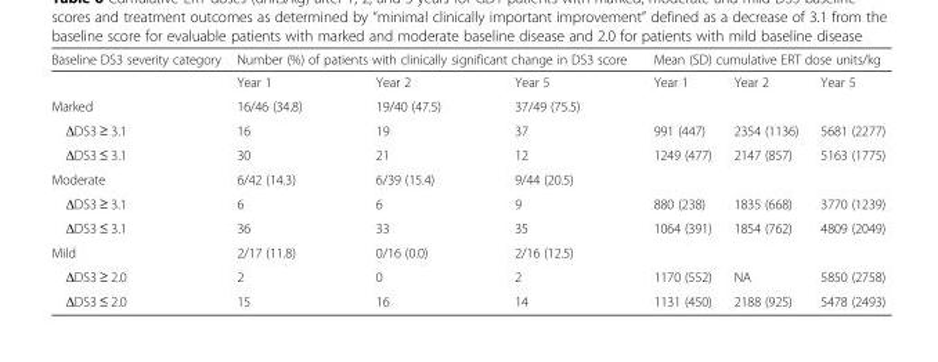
<table><thead><tr><td rowspan="2">Baseline DS3 severity category</td><td colspan="3">Number (%) of patients with clinically significant change in DS3 score</td><td colspan="3">Mean (SD) cumulative ERT dose units/kg</td></tr><tr><td>Year 1</td><td>Year 2</td><td>Year 5</td><td>Year 1</td><td>Year 2</td><td>Year 5</td></tr></thead><tbody><tr><td>Marked</td><td>16/46 (34.8)</td><td>19/40 (47.5)</td><td>37/49 (75.5)</td><td></td><td></td><td></td></tr><tr><td>ΔDS3 ≥ 3.1</td><td>16</td><td>19</td><td>37</td><td>991 (447)</td><td>2354 (1136)</td><td>5681 (2277)</td></tr><tr><td>ΔDS3 ≤ 3.1</td><td>30</td><td>21</td><td>12</td><td>1249 (477)</td><td>2147 (857)</td><td>5163 (1775)</td></tr><tr><td>Moderate</td><td>6/42 (14.3)</td><td>6/39 (15.4)</td><td>9/44 (20.5)</td><td></td><td></td><td></td></tr><tr><td>ΔDS3 ≥ 3.1</td><td>6</td><td>6</td><td>9</td><td>880 (238)</td><td>1835 (668)</td><td>3770 (1239)</td></tr><tr><td>ΔDS3 ≤ 3.1</td><td>36</td><td>33</td><td>35</td><td>1064 (391)</td><td>1854 (762)</td><td>4809 (2049)</td></tr><tr><td>Mild</td><td>2/17 (11.8)</td><td>0/16 (0.0)</td><td>2/16 (12.5)</td><td></td><td></td><td></td></tr><tr><td>ΔDS3 ≥ 2.0</td><td>2</td><td>0</td><td>2</td><td>1170 (552)</td><td>NA</td><td>5850 (2758)</td></tr><tr><td>ΔDS3 ≤ 2.0</td><td>15</td><td>16</td><td>14</td><td>1131 (450)</td><td>2188 (925)</td><td>5478 (2493)</td></tr></tbody></table>